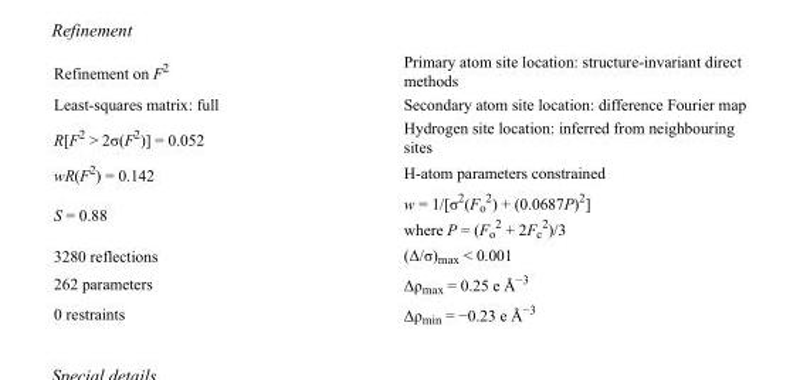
<table><tbody><tr><td>Refinement on F<sup>2</sup></td><td>Primary atom site location: structure-invariant direct methods</td></tr><tr><td>Least-squares matrix: full</td><td>Secondary atom site location: difference Fourier map</td></tr><tr><td>R[F<sup>2</sup> &gt; 2σ(F<sup>2</sup>)] = 0.052</td><td>Hydrogen site location: inferred from neighbouring sites</td></tr><tr><td>wR(F<sup>2</sup>) = 0.142</td><td>H-atom parameters constrained</td></tr><tr><td>S = 0.88</td><td>w = 1/[σ<sup>2</sup>(F<sub>o</sub> <sup>2</sup>) + (0.0687P)<sup>2</sup>] where P = (F<sub>o</sub> <sup>2</sup> + 2F<sub>c</sub> <sup>2</sup>)/3</td></tr><tr><td>3280 reflections</td><td>(Δ/σ)<sub>max</sub> &lt; 0.001</td></tr><tr><td>262 parameters</td><td>Δρ<sub>max</sub> = 0.25 e Å<sup>−3</sup></td></tr><tr><td>0 restraints</td><td>Δρ<sub>min</sub> = −0.23 e Å<sup>−3</sup></td></tr></tbody></table>